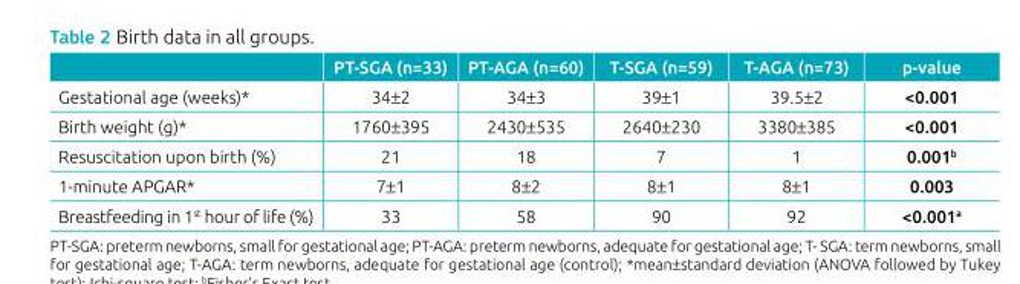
<table><thead><tr><td></td><td>PT‑SGA (n=33)</td><td>PT‑AGA (n=60)</td><td>T‑SGA (n=59)</td><td>T‑AGA (n=73)</td><td>p‑value</td></tr></thead><tbody><tr><td>Gestational age (weeks)*</td><td>34±2</td><td>34±3</td><td>39±1</td><td>39.5±2</td><td>&lt;0.001</td></tr><tr><td>Birth weight (g)*</td><td>1760±395</td><td>2430±535</td><td>2640±230</td><td>3380±385</td><td>&lt;0.001</td></tr><tr><td>Resuscitation upon birth (%)</td><td>21</td><td>18</td><td>7</td><td>1</td><td>0.001<sup>b</sup></td></tr><tr><td>1‑minute APGAR*</td><td>7±1</td><td>8±2</td><td>8±1</td><td>8±1</td><td>0.003</td></tr><tr><td>Breastfeeding in 1<sup>st</sup> hour of life (%)</td><td>33</td><td>58</td><td>90</td><td>92</td><td>&lt;0.001<sup>a</sup></td></tr></tbody></table>